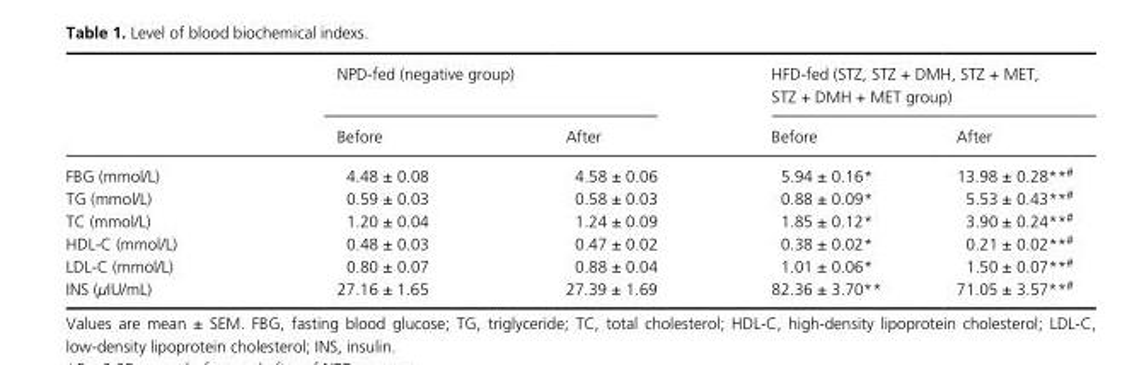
<table><thead><tr><td rowspan="2"></td><td colspan="2">NPD- fed (negative group)</td><td colspan="2">HFD- fed (STZ, STZ + DMH, STZ + MET, STZ + DMH + MET group)</td></tr><tr><td>Before</td><td>After</td><td>Before</td><td>After</td></tr></thead><tbody><tr><td>FBG (mmol/L)</td><td>4.48 ± 0.08</td><td>4.58 ± 0.06</td><td>5.94 ± 0.16*</td><td>13.98 ± 0.28**#</td></tr><tr><td>TG (mmol/L)</td><td>0.59 ± 0.03</td><td>0.58 ± 0.03</td><td>0.88 ± 0.09*</td><td>5.53 ± 0.43**#</td></tr><tr><td>TC (mmol/L)</td><td>1.20 ± 0.04</td><td>1.24 ± 0.09</td><td>1.85 ± 0.12*</td><td>3.90 ± 0.24**#</td></tr><tr><td>HDL- C (mmol/L)</td><td>0.48 ± 0.03</td><td>0.47 ± 0.02</td><td>0.38 ± 0.02*</td><td>0.21 ± 0.02**#</td></tr><tr><td>LDL- C (mmol/L)</td><td>0.80 ± 0.07</td><td>0.88 ± 0.04</td><td>1.01 ± 0.06*</td><td>1.50 ± 0.07**#</td></tr><tr><td>INS (μIU/mL)</td><td>27.16 ± 1.65</td><td>27.39 ± 1.69</td><td>82.36 ± 3.70**</td><td>71.05 ± 3.57**#</td></tr></tbody></table>